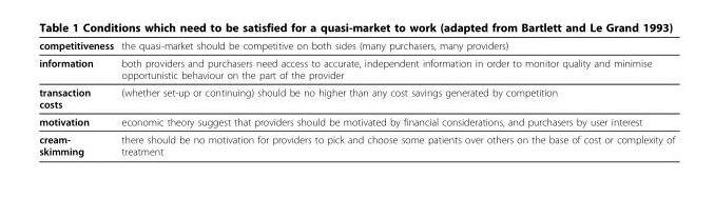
<table><thead><tr><td>competitiveness</td><td>the quasi-market should be competitive on both sides (many purchasers, many providers)</td></tr></thead><tbody><tr><td>information</td><td>both providers and purchasers need access to accurate, independent information in order to monitor quality and minimise opportunistic behaviour on the part of the provider</td></tr><tr><td>transaction costs</td><td>(whether set-up or continuing) should be no higher than any cost savings generated by competition</td></tr><tr><td>motivation</td><td>economic theory suggest that providers should be motivated by financial considerations, and purchasers by user interest</td></tr><tr><td>cream- skimming</td><td>there should be no motivation for providers to pick and choose some patients over others on the base of cost or complexity of treatment</td></tr></tbody></table>